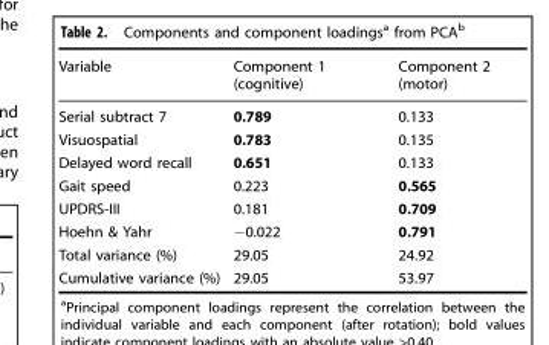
<table><thead><tr><td>Variable</td><td>Component 1 (cognitive)</td><td>Component 2 (motor)</td></tr></thead><tbody><tr><td>Serial subtract 7</td><td>0.789</td><td>0.133</td></tr><tr><td>Visuospatial</td><td>0.783</td><td>0.135</td></tr><tr><td>Delayed word recall</td><td>0.651</td><td>0.133</td></tr><tr><td>Gait speed</td><td>0.223</td><td>0.565</td></tr><tr><td>UPDRS-III</td><td>0.181</td><td>0.709</td></tr><tr><td>Hoehn &amp; Yahr</td><td>−0.022</td><td>0.791</td></tr><tr><td>Total variance (%)</td><td>29.05</td><td>24.92</td></tr><tr><td>Cumulative variance (%)</td><td>29.05</td><td>53.97</td></tr></tbody></table>